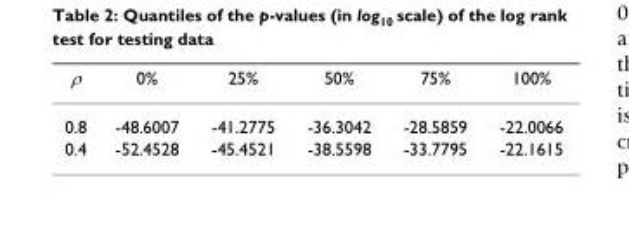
<table><thead><tr><td>ρ</td><td>0%</td><td>25%</td><td>50%</td><td>75%</td><td>100%</td></tr></thead><tbody><tr><td>0.8</td><td>-48.6007</td><td>-41.2775</td><td>-36.3042</td><td>-28.5859</td><td>-22.0066</td></tr><tr><td>0.4</td><td>-52.4528</td><td>-45.4521</td><td>-38.5598</td><td>-33.7795</td><td>-22.1615</td></tr></tbody></table>